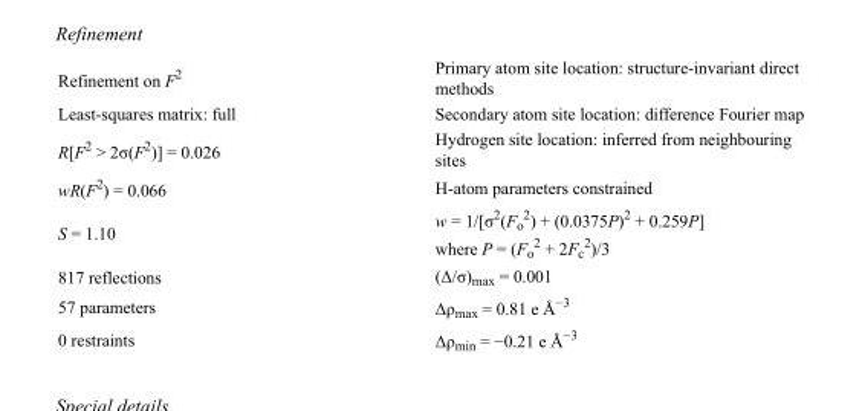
<table><tbody><tr><td>Refinement on F<sup>2</sup></td><td>Primary atom site location: structure-invariant direct methods</td></tr><tr><td>Least-squares matrix: full</td><td>Secondary atom site location: difference Fourier map</td></tr><tr><td>R[F<sup>2</sup> &gt; 2σ(F<sup>2</sup>)] = 0.026</td><td>Hydrogen site location: inferred from neighbouring sites</td></tr><tr><td>wR(F<sup>2</sup>) = 0.066</td><td>H-atom parameters constrained</td></tr><tr><td>S = 1.10</td><td>w = 1/[σ<sup>2</sup>(F<sub>o</sub> <sup>2</sup>) + (0.0375P)<sup>2</sup> + 0.259P] where P = (F<sub>o</sub> <sup>2</sup> + 2F<sub>c</sub> <sup>2</sup>)/3</td></tr><tr><td>817 reflections</td><td>(Δ/σ)<sub>max</sub> = 0.001</td></tr><tr><td>57 parameters</td><td>Δρ<sub>max</sub> = 0.81 e Å<sup>−3</sup></td></tr><tr><td>0 restraints</td><td>Δρ<sub>min</sub> = −0.21 e Å<sup>−3</sup></td></tr></tbody></table>